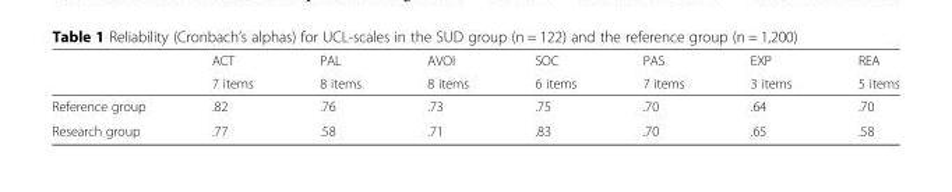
<table><thead><tr><td rowspan="2"></td><td rowspan="2">ACT 7 items</td><td rowspan="2">PAL 8 items</td><td rowspan="2">AVOI 8 items</td><td rowspan="2">SOC 6 items</td><td rowspan="2">PAS 7 items</td><td rowspan="2">EXP 3 items</td><td rowspan="2">REA 5 items</td></tr><tr></tr></thead><tbody><tr><td>Reference group</td><td>.82</td><td>.76</td><td>.73</td><td>.75</td><td>.70</td><td>.64</td><td>.70</td></tr><tr><td>Research group</td><td>.77</td><td>.58</td><td>.71</td><td>.83</td><td>.70</td><td>.65</td><td>.58</td></tr></tbody></table>